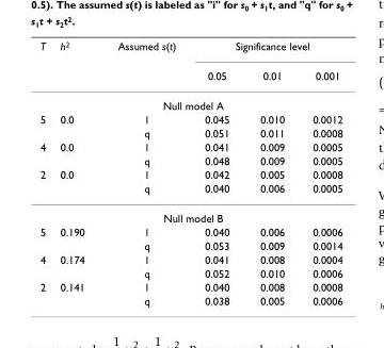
<table><thead><tr><td rowspan="2">T</td><td rowspan="2">h<sup>2</sup></td><td rowspan="2">Assumed s(t)</td><td colspan="3">Significance level</td></tr><tr><td>0.05</td><td>0.01</td><td>0.001</td></tr></thead><tbody><tr><td colspan="6">Null model A</td></tr><tr><td rowspan="2">5</td><td>0.0</td><td>l</td><td>0.045</td><td>0.010</td><td>0.0012</td></tr><tr><td></td><td>q</td><td>0.051</td><td>0.011</td><td>0.0008</td></tr><tr><td rowspan="2">4</td><td>0.0</td><td>l</td><td>0.041</td><td>0.009</td><td>0.0005</td></tr><tr><td></td><td>q</td><td>0.048</td><td>0.009</td><td>0.0005</td></tr><tr><td rowspan="2">2</td><td>0.0</td><td>l</td><td>0.042</td><td>0.005</td><td>0.0008</td></tr><tr><td></td><td>q</td><td>0.040</td><td>0.006</td><td>0.0005</td></tr><tr><td colspan="6">Null model B</td></tr><tr><td rowspan="2">5</td><td>0.190</td><td>l</td><td>0.040</td><td>0.006</td><td>0.0006</td></tr><tr><td></td><td>q</td><td>0.053</td><td>0.009</td><td>0.0014</td></tr><tr><td rowspan="2">4</td><td>0.174</td><td>l</td><td>0.041</td><td>0.008</td><td>0.0004</td></tr><tr><td></td><td>q</td><td>0.052</td><td>0.010</td><td>0.0006</td></tr><tr><td rowspan="2">2</td><td>0.141</td><td>l</td><td>0.040</td><td>0.008</td><td>0.0008</td></tr><tr><td></td><td>q</td><td>0.038</td><td>0.005</td><td>0.0006</td></tr></tbody></table>